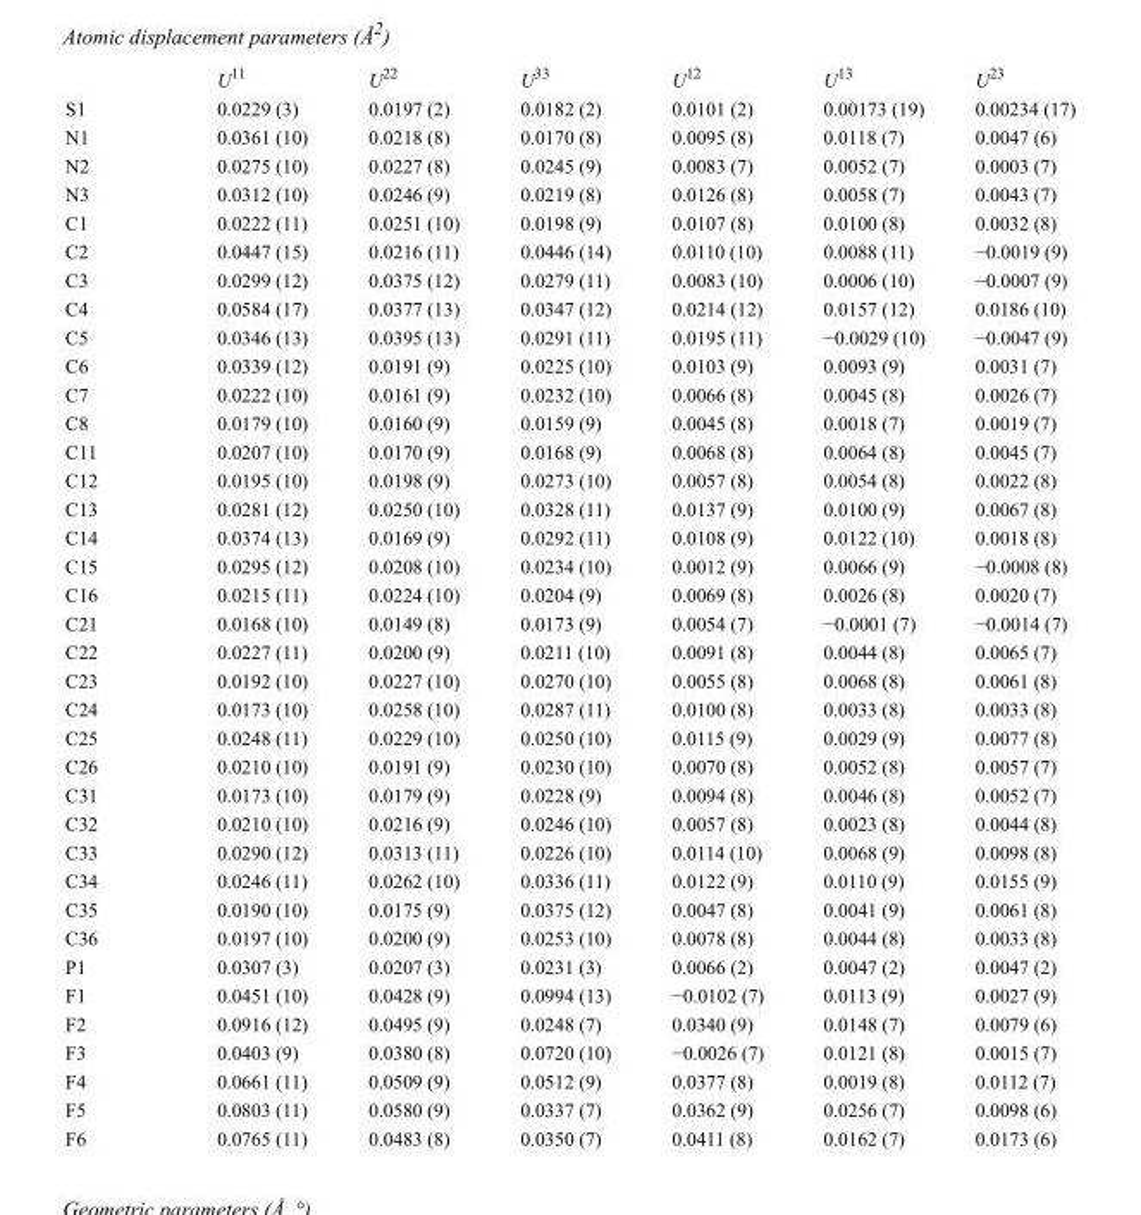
<table><thead><tr><td></td><td>U<sup>11</sup></td><td>U<sup>22</sup></td><td>U<sup>33</sup></td><td>U<sup>12</sup></td><td>U<sup>13</sup></td><td>U<sup>23</sup></td></tr></thead><tbody><tr><td>S1</td><td>0.0229 (3)</td><td>0.0197 (2)</td><td>0.0182 (2)</td><td>0.0101 (2)</td><td>0.00173 (19)</td><td>0.00234 (17)</td></tr><tr><td>N1</td><td>0.0361 (10)</td><td>0.0218 (8)</td><td>0.0170 (8)</td><td>0.0095 (8)</td><td>0.0118 (7)</td><td>0.0047 (6)</td></tr><tr><td>N2</td><td>0.0275 (10)</td><td>0.0227 (8)</td><td>0.0245 (9)</td><td>0.0083 (7)</td><td>0.0052 (7)</td><td>0.0003 (7)</td></tr><tr><td>N3</td><td>0.0312 (10)</td><td>0.0246 (9)</td><td>0.0219 (8)</td><td>0.0126 (8)</td><td>0.0058 (7)</td><td>0.0043 (7)</td></tr><tr><td>C1</td><td>0.0222 (11)</td><td>0.0251 (10)</td><td>0.0198 (9)</td><td>0.0107 (8)</td><td>0.0100 (8)</td><td>0.0032 (8)</td></tr><tr><td>C2</td><td>0.0447 (15)</td><td>0.0216 (11)</td><td>0.0446 (14)</td><td>0.0110 (10)</td><td>0.0088 (11)</td><td>−0.0019 (9)</td></tr><tr><td>C3</td><td>0.0299 (12)</td><td>0.0375 (12)</td><td>0.0279 (11)</td><td>0.0083 (10)</td><td>0.0006 (10)</td><td>−0.0007 (9)</td></tr><tr><td>C4</td><td>0.0584 (17)</td><td>0.0377 (13)</td><td>0.0347 (12)</td><td>0.0214 (12)</td><td>0.0157 (12)</td><td>0.0186 (10)</td></tr><tr><td>C5</td><td>0.0346 (13)</td><td>0.0395 (13)</td><td>0.0291 (11)</td><td>0.0195 (11)</td><td>−0.0029 (10)</td><td>−0.0047 (9)</td></tr><tr><td>C6</td><td>0.0339 (12)</td><td>0.0191 (9)</td><td>0.0225 (10)</td><td>0.0103 (9)</td><td>0.0093 (9)</td><td>0.0031 (7)</td></tr><tr><td>C7</td><td>0.0222 (10)</td><td>0.0161 (9)</td><td>0.0232 (10)</td><td>0.0066 (8)</td><td>0.0045 (8)</td><td>0.0026 (7)</td></tr><tr><td>C8</td><td>0.0179 (10)</td><td>0.0160 (9)</td><td>0.0159 (9)</td><td>0.0045 (8)</td><td>0.0018 (7)</td><td>0.0019 (7)</td></tr><tr><td>C11</td><td>0.0207 (10)</td><td>0.0170 (9)</td><td>0.0168 (9)</td><td>0.0068 (8)</td><td>0.0064 (8)</td><td>0.0045 (7)</td></tr><tr><td>C12</td><td>0.0195 (10)</td><td>0.0198 (9)</td><td>0.0273 (10)</td><td>0.0057 (8)</td><td>0.0054 (8)</td><td>0.0022 (8)</td></tr><tr><td>C13</td><td>0.0281 (12)</td><td>0.0250 (10)</td><td>0.0328 (11)</td><td>0.0137 (9)</td><td>0.0100 (9)</td><td>0.0067 (8)</td></tr><tr><td>C14</td><td>0.0374 (13)</td><td>0.0169 (9)</td><td>0.0292 (11)</td><td>0.0108 (9)</td><td>0.0122 (10)</td><td>0.0018 (8)</td></tr><tr><td>C15</td><td>0.0295 (12)</td><td>0.0208 (10)</td><td>0.0234 (10)</td><td>0.0012 (9)</td><td>0.0066 (9)</td><td>−0.0008 (8)</td></tr><tr><td>C16</td><td>0.0215 (11)</td><td>0.0224 (10)</td><td>0.0204 (9)</td><td>0.0069 (8)</td><td>0.0026 (8)</td><td>0.0020 (7)</td></tr><tr><td>C21</td><td>0.0168 (10)</td><td>0.0149 (8)</td><td>0.0173 (9)</td><td>0.0054 (7)</td><td>−0.0001 (7)</td><td>−0.0014 (7)</td></tr><tr><td>C22</td><td>0.0227 (11)</td><td>0.0200 (9)</td><td>0.0211 (10)</td><td>0.0091 (8)</td><td>0.0044 (8)</td><td>0.0065 (7)</td></tr><tr><td>C23</td><td>0.0192 (10)</td><td>0.0227 (10)</td><td>0.0270 (10)</td><td>0.0055 (8)</td><td>0.0068 (8)</td><td>0.0061 (8)</td></tr><tr><td>C24</td><td>0.0173 (10)</td><td>0.0258 (10)</td><td>0.0287 (11)</td><td>0.0100 (8)</td><td>0.0033 (8)</td><td>0.0033 (8)</td></tr><tr><td>C25</td><td>0.0248 (11)</td><td>0.0229 (10)</td><td>0.0250 (10)</td><td>0.0115 (9)</td><td>0.0029 (9)</td><td>0.0077 (8)</td></tr><tr><td>C26</td><td>0.0210 (10)</td><td>0.0191 (9)</td><td>0.0230 (10)</td><td>0.0070 (8)</td><td>0.0052 (8)</td><td>0.0057 (7)</td></tr><tr><td>C31</td><td>0.0173 (10)</td><td>0.0179 (9)</td><td>0.0228 (9)</td><td>0.0094 (8)</td><td>0.0046 (8)</td><td>0.0052 (7)</td></tr><tr><td>C32</td><td>0.0210 (10)</td><td>0.0216 (9)</td><td>0.0246 (10)</td><td>0.0057 (8)</td><td>0.0023 (8)</td><td>0.0044 (8)</td></tr><tr><td>C33</td><td>0.0290 (12)</td><td>0.0313 (11)</td><td>0.0226 (10)</td><td>0.0114 (10)</td><td>0.0068 (9)</td><td>0.0098 (8)</td></tr><tr><td>C34</td><td>0.0246 (11)</td><td>0.0262 (10)</td><td>0.0336 (11)</td><td>0.0122 (9)</td><td>0.0110 (9)</td><td>0.0155 (9)</td></tr><tr><td>C35</td><td>0.0190 (10)</td><td>0.0175 (9)</td><td>0.0375 (12)</td><td>0.0047 (8)</td><td>0.0041 (9)</td><td>0.0061 (8)</td></tr><tr><td>C36</td><td>0.0197 (10)</td><td>0.0200 (9)</td><td>0.0253 (10)</td><td>0.0078 (8)</td><td>0.0044 (8)</td><td>0.0033 (8)</td></tr><tr><td>P1</td><td>0.0307 (3)</td><td>0.0207 (3)</td><td>0.0231 (3)</td><td>0.0066 (2)</td><td>0.0047 (2)</td><td>0.0047 (2)</td></tr><tr><td>F1</td><td>0.0451 (10)</td><td>0.0428 (9)</td><td>0.0994 (13)</td><td>−0.0102 (7)</td><td>0.0113 (9)</td><td>0.0027 (9)</td></tr><tr><td>F2</td><td>0.0916 (12)</td><td>0.0495 (9)</td><td>0.0248 (7)</td><td>0.0340 (9)</td><td>0.0148 (7)</td><td>0.0079 (6)</td></tr><tr><td>F3</td><td>0.0403 (9)</td><td>0.0380 (8)</td><td>0.0720 (10)</td><td>−0.0026 (7)</td><td>0.0121 (8)</td><td>0.0015 (7)</td></tr><tr><td>F4</td><td>0.0661 (11)</td><td>0.0509 (9)</td><td>0.0512 (9)</td><td>0.0377 (8)</td><td>0.0019 (8)</td><td>0.0112 (7)</td></tr><tr><td>F5</td><td>0.0803 (11)</td><td>0.0580 (9)</td><td>0.0337 (7)</td><td>0.0362 (9)</td><td>0.0256 (7)</td><td>0.0098 (6)</td></tr><tr><td>F6</td><td>0.0765 (11)</td><td>0.0483 (8)</td><td>0.0350 (7)</td><td>0.0411 (8)</td><td>0.0162 (7)</td><td>0.0173 (6)</td></tr></tbody></table>